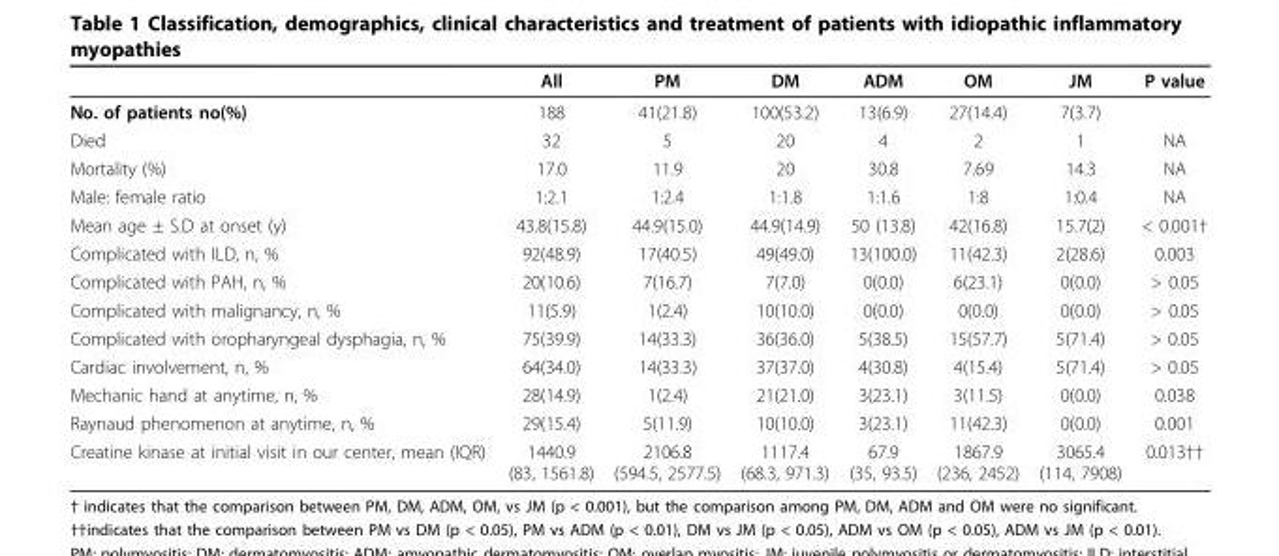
<table><thead><tr><td></td><td>All</td><td>PM</td><td>DM</td><td>ADM</td><td>OM</td><td>JM</td><td>P value</td></tr></thead><tbody><tr><td>No. of patients no(%)</td><td>188</td><td>41(21.8)</td><td>100(53.2)</td><td>13(6.9)</td><td>27(14.4)</td><td>7(3.7)</td><td></td></tr><tr><td>Died</td><td>32</td><td>5</td><td>20</td><td>4</td><td>2</td><td>1</td><td>NA</td></tr><tr><td>Mortality (%)</td><td>17.0</td><td>11.9</td><td>20</td><td>30.8</td><td>7.69</td><td>14.3</td><td>NA</td></tr><tr><td>Male: female ratio</td><td>1:2.1</td><td>1:2.4</td><td>1:1.8</td><td>1:1.6</td><td>1:8</td><td>1:0.4</td><td>NA</td></tr><tr><td>Mean age ± S.D at onset (y)</td><td>43.8(15.8)</td><td>44.9(15.0)</td><td>44.9(14.9)</td><td>50 (13.8)</td><td>42(16.8)</td><td>15.7(2)</td><td>&lt; 0.001†</td></tr><tr><td>Complicated with ILD, n, %</td><td>92(48.9)</td><td>17(40.5)</td><td>49(49.0)</td><td>13(100.0)</td><td>11(42.3)</td><td>2(28.6)</td><td>0.003</td></tr><tr><td>Complicated with PAH, n, %</td><td>20(10.6)</td><td>7(16.7)</td><td>7(7.0)</td><td>0(0.0)</td><td>6(23.1)</td><td>0(0.0)</td><td>&gt; 0.05</td></tr><tr><td>Complicated with malignancy, n, %</td><td>11(5.9)</td><td>1(2.4)</td><td>10(10.0)</td><td>0(0.0)</td><td>0(0.0)</td><td>0(0.0)</td><td>&gt; 0.05</td></tr><tr><td>Complicated with oropharyngeal dysphagia, n, %</td><td>75(39.9)</td><td>14(33.3)</td><td>36(36.0)</td><td>5(38.5)</td><td>15(57.7)</td><td>5(71.4)</td><td>&gt; 0.05</td></tr><tr><td>Cardiac involvement, n, %</td><td>64(34.0)</td><td>14(33.3)</td><td>37(37.0)</td><td>4(30.8)</td><td>4(15.4)</td><td>5(71.4)</td><td>&gt; 0.05</td></tr><tr><td>Mechanic hand at anytime, n, %</td><td>28(14.9)</td><td>1(2.4)</td><td>21(21.0)</td><td>3(23.1)</td><td>3(11.5)</td><td>0(0.0)</td><td>0.038</td></tr><tr><td>Raynaud phenomenon at anytime, n, %</td><td>29(15.4)</td><td>5(11.9)</td><td>10(10.0)</td><td>3(23.1)</td><td>11(42.3)</td><td>0(0.0)</td><td>0.001</td></tr><tr><td>Creatine kinase at initial visit in our center, mean (IQR)</td><td>1440.9 (83, 1561.8)</td><td>2106.8 (594.5, 2577.5)</td><td>1117.4 (68.3, 971.3)</td><td>67.9 (35, 93.5)</td><td>1867.9 (236, 2452)</td><td>3065.4 (114, 7908)</td><td>0.013††</td></tr></tbody></table>